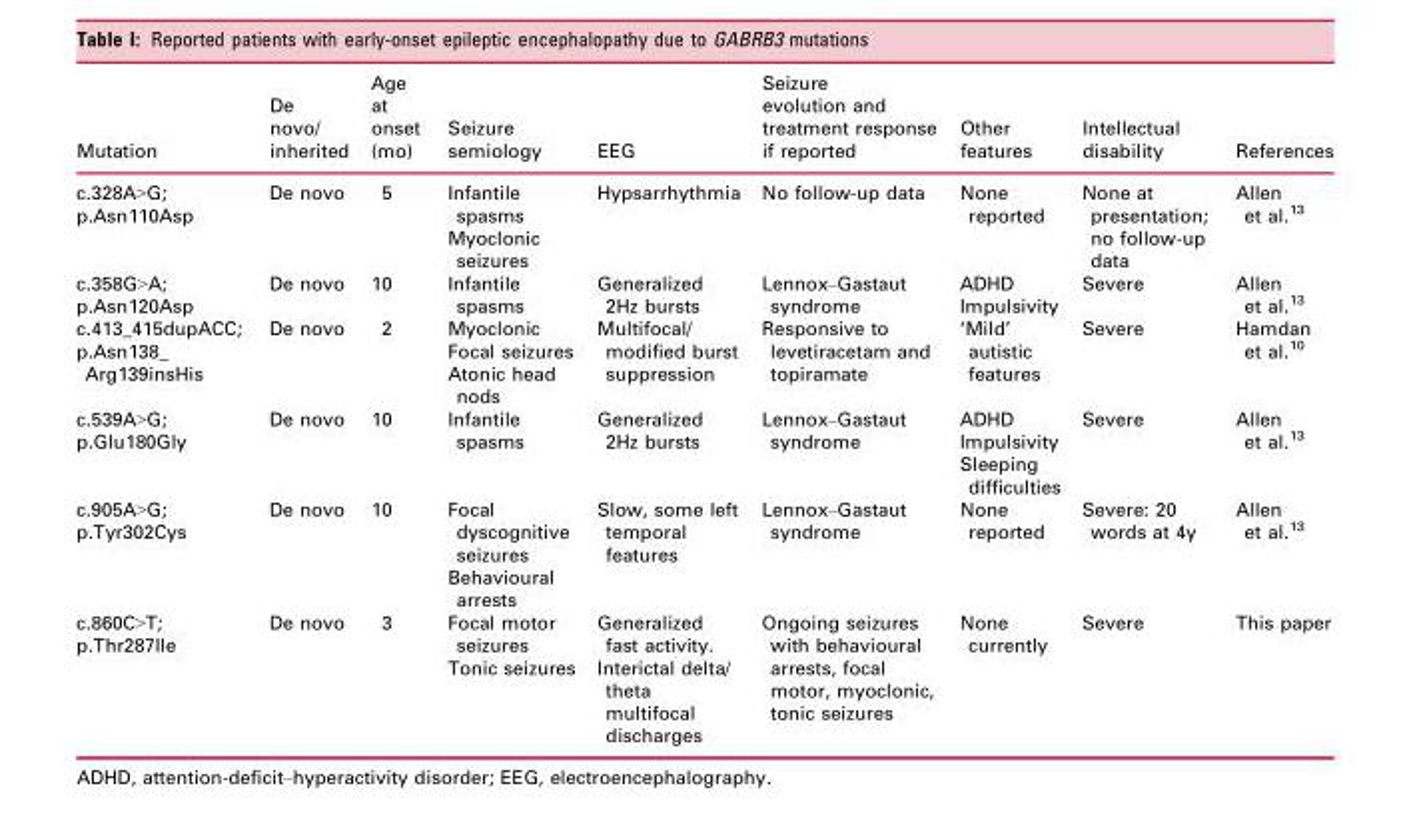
<table><thead><tr><td>Mutation</td><td>De novo/ inherited</td><td>Age at onset (mo)</td><td>Seizure semiology</td><td>EEG</td><td>Seizure evolution and treatment response if reported</td><td>Other features</td><td>Intellectual disability</td><td>References</td></tr></thead><tbody><tr><td>c.328A&gt;G; p.Asn110Asp</td><td>De novo</td><td>5</td><td>Infantile spasms Myoclonic seizures</td><td>Hypsarrhythmia</td><td>No follow-up data</td><td>None reported</td><td>None at presentation; no follow-up data</td><td>Allen et al.<sup>13</sup></td></tr><tr><td>c.358G&gt;A; p.Asn120Asp</td><td>De novo</td><td>10</td><td>Infantile spasms</td><td>Generalized 2Hz bursts</td><td>Lennox–Gastaut syndrome</td><td>ADHD Impulsivity</td><td>Severe</td><td>Allen et al.<sup>13</sup></td></tr><tr><td>c.413_415dupACC; p.Asn138_ Arg139insHis</td><td>De novo</td><td>2</td><td>Myoclonic Focal seizures Atonic head nods</td><td>Multifocal/ modified burst suppression</td><td>Responsive to levetiracetam and topiramate</td><td>‘Mild’ autistic features</td><td>Severe</td><td>Hamdan et al.<sup>10</sup></td></tr><tr><td>c.539A&gt;G; p.Glu180Gly</td><td>De novo</td><td>10</td><td>Infantile spasms</td><td>Generalized 2Hz bursts</td><td>Lennox–Gastaut syndrome</td><td>ADHD Impulsivity Sleeping difficulties</td><td>Severe</td><td>Allen et al.<sup>13</sup></td></tr><tr><td>c.905A&gt;G; p.Tyr302Cys</td><td>De novo</td><td>10</td><td>Focal dyscognitive seizures Behavioural arrests</td><td>Slow, some left temporal features</td><td>Lennox–Gastaut syndrome</td><td>None reported</td><td>Severe: 20 words at 4y</td><td>Allen et al.<sup>13</sup></td></tr><tr><td>c.860C&gt;T; p.Thr287Ile</td><td>De novo</td><td>3</td><td>Focal motor seizures Tonic seizures</td><td>Generalized fast activity. Interictal delta/ theta multifocal discharges</td><td>Ongoing seizures with behavioural arrests, focal motor, myoclonic, tonic seizures</td><td>None currently</td><td>Severe</td><td>This paper</td></tr></tbody></table>